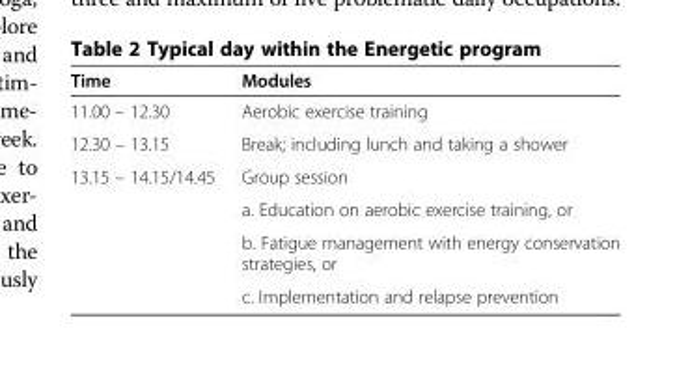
<table><thead><tr><td>Time</td><td>Modules</td></tr></thead><tbody><tr><td>11.00 – 12.30</td><td>Aerobic exercise training</td></tr><tr><td>12.30 – 13.15</td><td>Break; including lunch and taking a shower</td></tr><tr><td rowspan="4">13.15 – 14.15/14.45</td><td>Group session</td></tr><tr><td>a. Education on aerobic exercise training, or</td></tr><tr><td>b. Fatigue management with energy conservation strategies, or</td></tr><tr><td>c. Implementation and relapse prevention</td></tr></tbody></table>